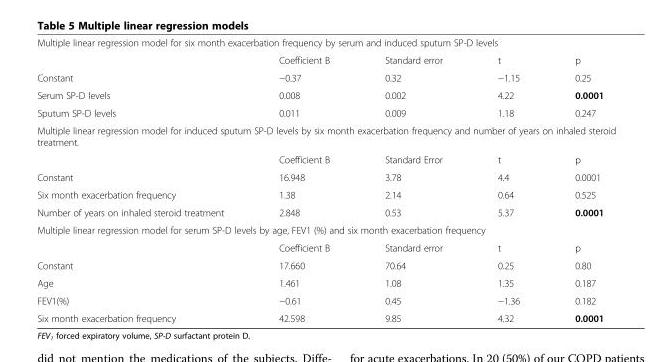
<table><tbody><tr><td colspan="5">Multiple linear regression model for six month exacerbation frequency by serum and induced sputum SP-D levels</td></tr><tr><td></td><td>Coefficient B</td><td>Standard error</td><td>t</td><td>p</td></tr><tr><td>Constant</td><td>−0.37</td><td>0.32</td><td>−1.15</td><td>0.25</td></tr><tr><td>Serum SP-D levels</td><td>0.008</td><td>0.002</td><td>4.22</td><td>0.0001</td></tr><tr><td>Sputum SP-D levels</td><td>0.011</td><td>0.009</td><td>1.18</td><td>0.247</td></tr><tr><td colspan="5">Multiple linear regression model for induced sputum SP-D levels by six month exacerbation frequency and number of years on inhaled steroid treatment.</td></tr><tr><td></td><td>Coefficient B</td><td>Standard Error</td><td>t</td><td>p</td></tr><tr><td>Constant</td><td>16.948</td><td>3.78</td><td>4.4</td><td>0.0001</td></tr><tr><td>Six month exacerbation frequency</td><td>1.38</td><td>2.14</td><td>0.64</td><td>0.525</td></tr><tr><td>Number of years on inhaled steroid treatment</td><td>2.848</td><td>0.53</td><td>5.37</td><td>0.0001</td></tr><tr><td colspan="5">Multiple linear regression model for serum SP-D levels by age, FEV1 (%) and six month exacerbation frequency</td></tr><tr><td></td><td>Coefficient B</td><td>Standard error</td><td>t</td><td>p</td></tr><tr><td>Constant</td><td>17.660</td><td>70.64</td><td>0.25</td><td>0.80</td></tr><tr><td>Age</td><td>1.461</td><td>1.08</td><td>1.35</td><td>0.187</td></tr><tr><td>FEV1(%)</td><td>−0.61</td><td>0.45</td><td>−1.36</td><td>0.182</td></tr><tr><td>Six month exacerbation frequency</td><td>42.598</td><td>9.85</td><td>4.32</td><td>0.0001</td></tr></tbody></table>